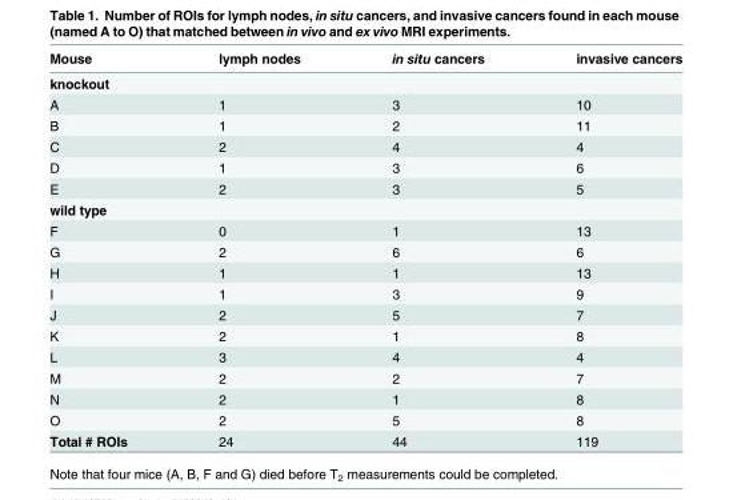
<table><thead><tr><td>Mouse</td><td>lymph nodes</td><td>in situ cancers</td><td>invasive cancers</td></tr></thead><tbody><tr><td colspan="4">knockout</td></tr><tr><td>A</td><td>1</td><td>3</td><td>10</td></tr><tr><td>B</td><td>1</td><td>2</td><td>11</td></tr><tr><td>C</td><td>2</td><td>4</td><td>4</td></tr><tr><td>D</td><td>1</td><td>3</td><td>6</td></tr><tr><td>E</td><td>2</td><td>3</td><td>5</td></tr><tr><td colspan="4">wild type</td></tr><tr><td>F</td><td>0</td><td>1</td><td>13</td></tr><tr><td>G</td><td>2</td><td>6</td><td>6</td></tr><tr><td>H</td><td>1</td><td>1</td><td>13</td></tr><tr><td>I</td><td>1</td><td>3</td><td>9</td></tr><tr><td>J</td><td>2</td><td>5</td><td>7</td></tr><tr><td>K</td><td>2</td><td>1</td><td>8</td></tr><tr><td>L</td><td>3</td><td>4</td><td>4</td></tr><tr><td>M</td><td>2</td><td>2</td><td>7</td></tr><tr><td>N</td><td>2</td><td>1</td><td>8</td></tr><tr><td>O</td><td>2</td><td>5</td><td>8</td></tr><tr><td>Total # ROIs</td><td>24</td><td>44</td><td>119</td></tr></tbody></table>